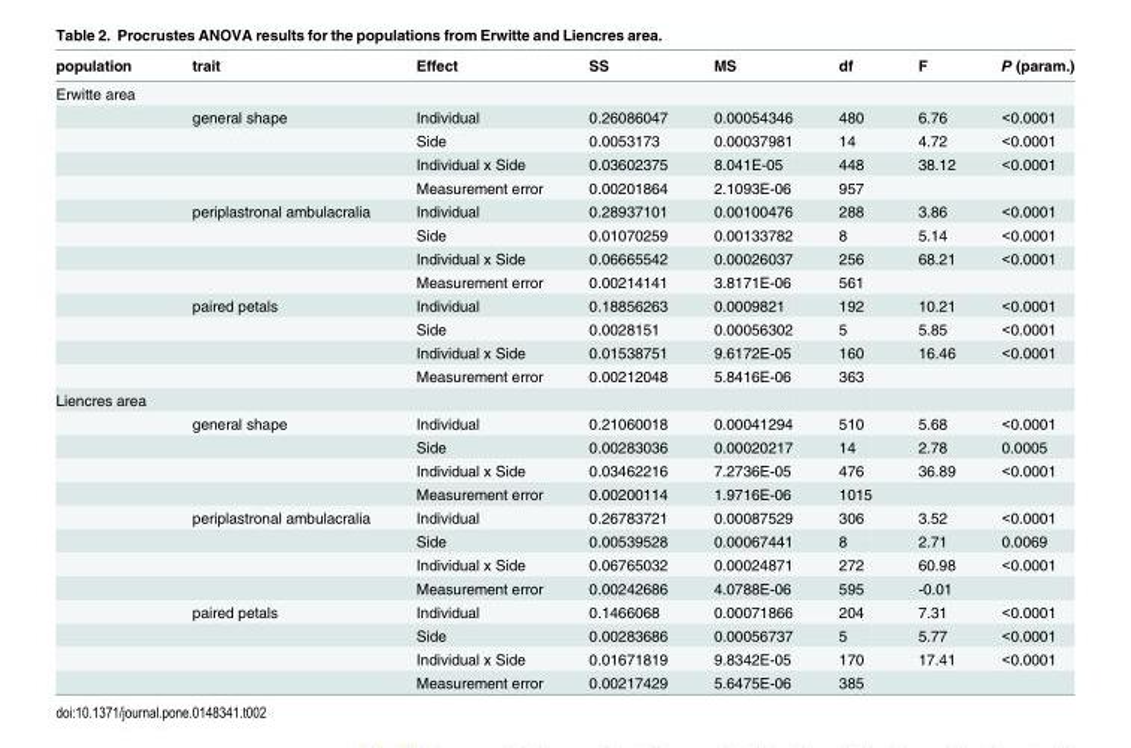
<table><thead><tr><td>population</td><td>trait</td><td>Effect</td><td>SS</td><td>MS</td><td>df</td><td>F</td><td>P (param.)</td></tr></thead><tbody><tr><td colspan="8">Erwitte area</td></tr><tr><td></td><td>general shape</td><td>Individual</td><td>0.26086047</td><td>0.00054346</td><td>480</td><td>6.76</td><td>&lt;0.0001</td></tr><tr><td></td><td></td><td>Side</td><td>0.0053173</td><td>0.00037981</td><td>14</td><td>4.72</td><td>&lt;0.0001</td></tr><tr><td></td><td></td><td>Individual x Side</td><td>0.03602375</td><td>8.041E-05</td><td>448</td><td>38.12</td><td>&lt;0.0001</td></tr><tr><td></td><td></td><td>Measurement error</td><td>0.00201864</td><td>2.1093E-06</td><td>957</td><td></td><td></td></tr><tr><td></td><td>periplastronal ambulacralia</td><td>Individual</td><td>0.28937101</td><td>0.00100476</td><td>288</td><td>3.86</td><td>&lt;0.0001</td></tr><tr><td></td><td></td><td>Side</td><td>0.01070259</td><td>0.00133782</td><td>8</td><td>5.14</td><td>&lt;0.0001</td></tr><tr><td></td><td></td><td>Individual x Side</td><td>0.06665542</td><td>0.00026037</td><td>256</td><td>68.21</td><td>&lt;0.0001</td></tr><tr><td></td><td></td><td>Measurement error</td><td>0.00214141</td><td>3.8171E-06</td><td>561</td><td></td><td></td></tr><tr><td></td><td>paired petals</td><td>Individual</td><td>0.18856263</td><td>0.0009821</td><td>192</td><td>10.21</td><td>&lt;0.0001</td></tr><tr><td></td><td></td><td>Side</td><td>0.0028151</td><td>0.00056302</td><td>5</td><td>5.85</td><td>&lt;0.0001</td></tr><tr><td></td><td></td><td>Individual x Side</td><td>0.01538751</td><td>9.6172E-05</td><td>160</td><td>16.46</td><td>&lt;0.0001</td></tr><tr><td></td><td></td><td>Measurement error</td><td>0.00212048</td><td>5.8416E-06</td><td>363</td><td></td><td></td></tr><tr><td colspan="8">Liencres area</td></tr><tr><td></td><td>general shape</td><td>Individual</td><td>0.21060018</td><td>0.00041294</td><td>510</td><td>5.68</td><td>&lt;0.0001</td></tr><tr><td></td><td></td><td>Side</td><td>0.00283036</td><td>0.00020217</td><td>14</td><td>2.78</td><td>0.0005</td></tr><tr><td></td><td></td><td>Individual x Side</td><td>0.03462216</td><td>7.2736E-05</td><td>476</td><td>36.89</td><td>&lt;0.0001</td></tr><tr><td></td><td></td><td>Measurement error</td><td>0.00200114</td><td>1.9716E-06</td><td>1015</td><td></td><td></td></tr><tr><td></td><td>periplastronal ambulacralia</td><td>Individual</td><td>0.26783721</td><td>0.00087529</td><td>306</td><td>3.52</td><td>&lt;0.0001</td></tr><tr><td></td><td></td><td>Side</td><td>0.00539528</td><td>0.00067441</td><td>8</td><td>2.71</td><td>0.0069</td></tr><tr><td></td><td></td><td>Individual x Side</td><td>0.06765032</td><td>0.00024871</td><td>272</td><td>60.98</td><td>&lt;0.0001</td></tr><tr><td></td><td></td><td>Measurement error</td><td>0.00242686</td><td>4.0788E-06</td><td>595</td><td>-0.01</td><td></td></tr><tr><td></td><td>paired petals</td><td>Individual</td><td>0.1466068</td><td>0.00071866</td><td>204</td><td>7.31</td><td>&lt;0.0001</td></tr><tr><td></td><td></td><td>Side</td><td>0.00283686</td><td>0.00056737</td><td>5</td><td>5.77</td><td>&lt;0.0001</td></tr><tr><td></td><td></td><td>Individual x Side</td><td>0.01671819</td><td>9.8342E-05</td><td>170</td><td>17.41</td><td>&lt;0.0001</td></tr><tr><td></td><td></td><td>Measurement error</td><td>0.00217429</td><td>5.6475E-06</td><td>385</td><td></td><td></td></tr></tbody></table>